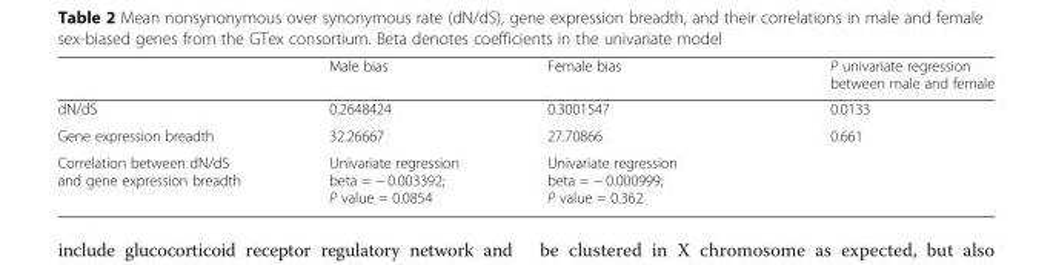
<table><thead><tr><td></td><td>Male bias</td><td>Female bias</td><td>P univariate regression between male and female</td></tr></thead><tbody><tr><td>dN/dS</td><td>0.2648424</td><td>0.3001547</td><td>0.0133</td></tr><tr><td>Gene expression breadth</td><td>32.26667</td><td>27.70866</td><td>0.661</td></tr><tr><td>Correlation between dN/dS and gene expression breadth</td><td>Univariate regression beta = − 0.003392; P value = 0.0854</td><td>Univariate regression beta = − 0.000999; P value = 0.362</td><td></td></tr></tbody></table>